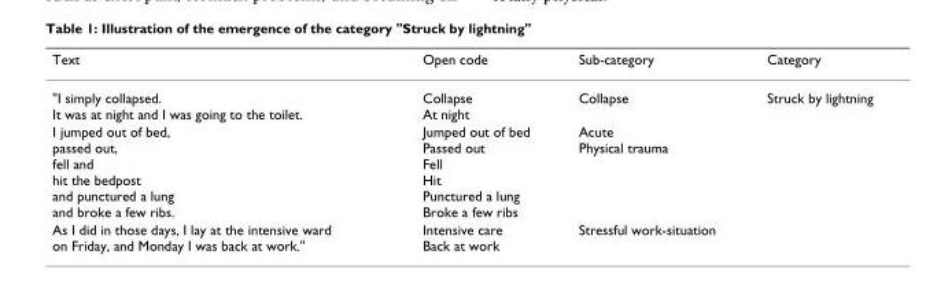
<table><thead><tr><td>Text</td><td>Open code</td><td>Sub-category</td><td>Category</td></tr></thead><tbody><tr><td>&quot;I simply collapsed. It was at night and I was going to the toilet.</td><td>Collapse At night</td><td>Collapse</td><td>Struck by lightning</td></tr><tr><td>I jumped out of bed, passed out, fell and hit the bedpost and punctured a lung and broke a few ribs.</td><td>Jumped out of bed Passed out Fell Hit Punctured a lung Broke a few ribs</td><td>Acute Physical trauma</td><td></td></tr><tr><td>As I did in those days, I lay at the intensive ward on Friday, and Monday I was back at work.&quot;</td><td>Intensive care Back at work</td><td>Stressful work-situation</td><td></td></tr></tbody></table>